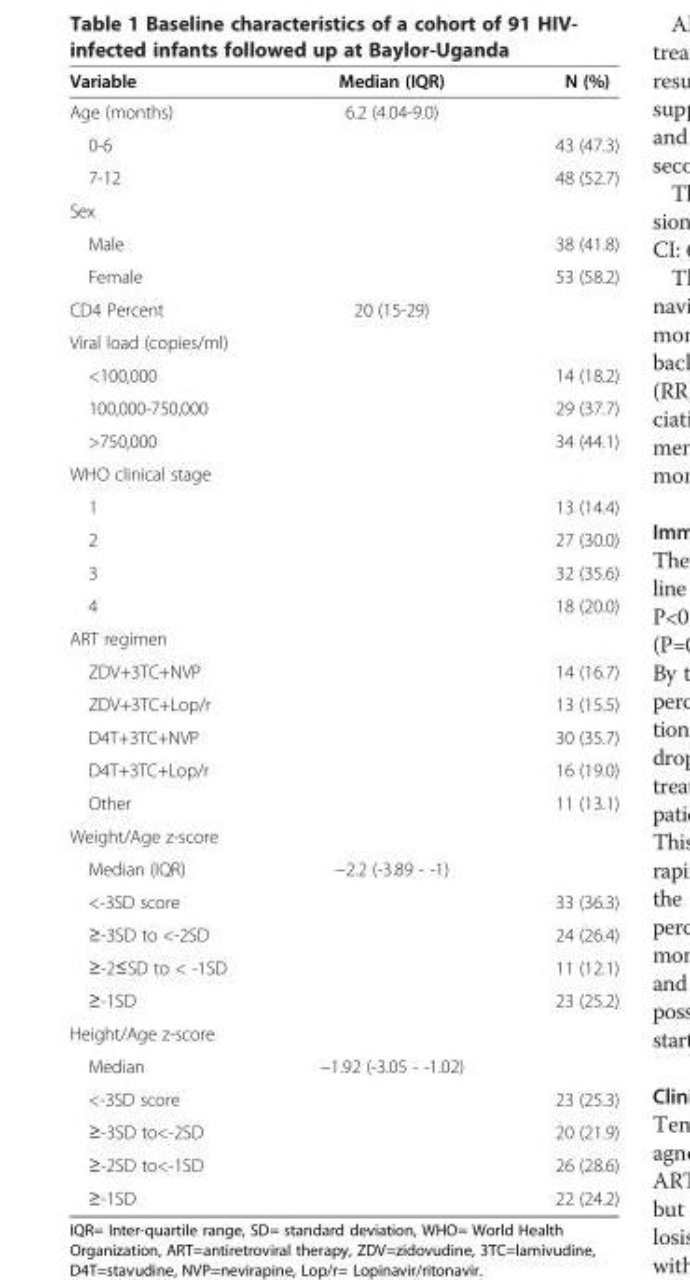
<table><thead><tr><td>Variable</td><td>Median (IQR)</td><td>N (%)</td></tr></thead><tbody><tr><td>Age (months)</td><td>6.2 (4.04-9.0)</td><td></td></tr><tr><td>0-6</td><td></td><td>43 (47.3)</td></tr><tr><td>7-12</td><td></td><td>48 (52.7)</td></tr><tr><td colspan="3">Sex</td></tr><tr><td>Male</td><td></td><td>38 (41.8)</td></tr><tr><td>Female</td><td></td><td>53 (58.2)</td></tr><tr><td>CD4 Percent</td><td>20 (15-29)</td><td></td></tr><tr><td colspan="3">Viral load (copies/ml)</td></tr><tr><td>&lt;100,000</td><td></td><td>14 (18.2)</td></tr><tr><td>100,000-750,000</td><td></td><td>29 (37.7)</td></tr><tr><td>&gt;750,000</td><td></td><td>34 (44.1)</td></tr><tr><td colspan="3">WHO clinical stage</td></tr><tr><td>1</td><td></td><td>13 (14.4)</td></tr><tr><td>2</td><td></td><td>27 (30.0)</td></tr><tr><td>3</td><td></td><td>32 (35.6)</td></tr><tr><td>4</td><td></td><td>18 (20.0)</td></tr><tr><td colspan="3">ART regimen</td></tr><tr><td>ZDV+3TC+NVP</td><td></td><td>14 (16.7)</td></tr><tr><td>ZDV+3TC+Lop/r</td><td></td><td>13 (15.5)</td></tr><tr><td>D4T+3TC+NVP</td><td></td><td>30 (35.7)</td></tr><tr><td>D4T+3TC+Lop/r</td><td></td><td>16 (19.0)</td></tr><tr><td>Other</td><td></td><td>11 (13.1)</td></tr><tr><td colspan="3">Weight/Age z-score</td></tr><tr><td>Median (IQR)</td><td>−2.2 (-3.89 - -1)</td><td></td></tr><tr><td>&lt;-3SD score</td><td></td><td>33 (36.3)</td></tr><tr><td>≥-3SD to &lt;-2SD</td><td></td><td>24 (26.4)</td></tr><tr><td>≥-2≤SD to &lt; -1SD</td><td></td><td>11 (12.1)</td></tr><tr><td>≥-1SD</td><td></td><td>23 (25.2)</td></tr><tr><td colspan="3">Height/Age z-score</td></tr><tr><td>Median</td><td>−1.92 (-3.05 - -1.02)</td><td></td></tr><tr><td>&lt;-3SD score</td><td></td><td>23 (25.3)</td></tr><tr><td>≥-3SD to&lt;-2SD</td><td></td><td>20 (21.9)</td></tr><tr><td>≥-2SD to&lt;-1SD</td><td></td><td>26 (28.6)</td></tr><tr><td>≥-1SD</td><td></td><td>22 (24.2)</td></tr></tbody></table>